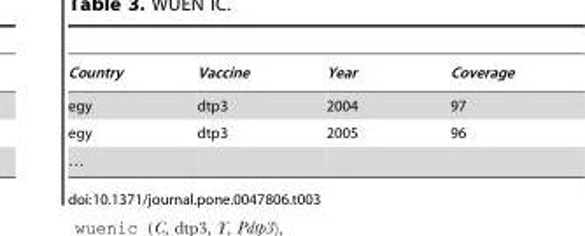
<table><thead><tr><td>Country</td><td>Vaccine</td><td>Year</td><td>Coverage</td></tr></thead><tbody><tr><td>egy</td><td>dtp3</td><td>2004</td><td>97</td></tr><tr><td>egy</td><td>dtp3</td><td>2005</td><td>96</td></tr><tr><td>…</td><td></td><td></td><td></td></tr></tbody></table>